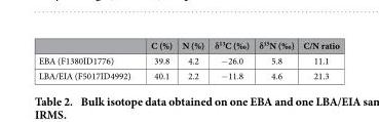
<table><thead><tr><td></td><td>C (%)</td><td>N (%)</td><td>δ<sup>13</sup>C (‰)</td><td>δ<sup>15</sup>N (‰)</td><td>C/N ratio</td></tr></thead><tbody><tr><td>EBA (F1380ID1776)</td><td>39.8</td><td>4.2</td><td>− 26.0</td><td>5.8</td><td>11.1</td></tr><tr><td>LBA/EIA (F5017ID4992)</td><td>40.1</td><td>2.2</td><td>− 11.8</td><td>4.6</td><td>21.3</td></tr></tbody></table>